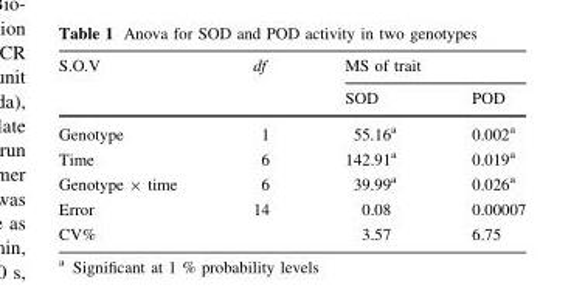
<table><thead><tr><td rowspan="2">S.O.V</td><td rowspan="2">df</td><td colspan="2">MS of trait</td></tr><tr><td>SOD</td><td>POD</td></tr></thead><tbody><tr><td>Genotype</td><td>1</td><td>55.16<sup>a</sup></td><td>0.002<sup>a</sup></td></tr><tr><td>Time</td><td>6</td><td>142.91<sup>a</sup></td><td>0.019<sup>a</sup></td></tr><tr><td>Genotype × time</td><td>6</td><td>39.99<sup>a</sup></td><td>0.026<sup>a</sup></td></tr><tr><td>Error</td><td>14</td><td>0.08</td><td>0.00007</td></tr><tr><td>CV%</td><td></td><td>3.57</td><td>6.75</td></tr></tbody></table>